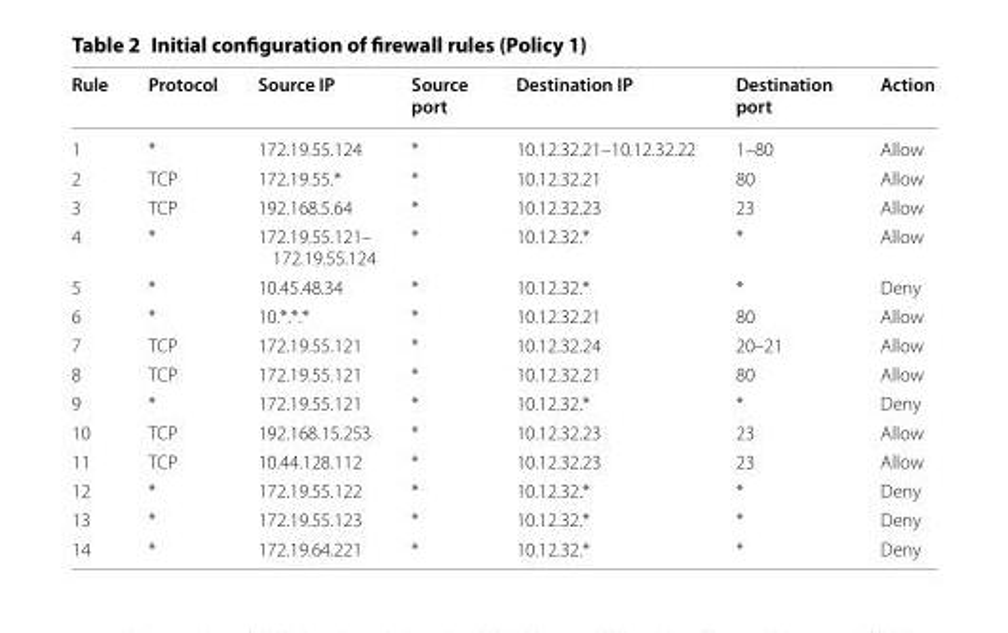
<table><thead><tr><td>Rule</td><td>Protocol</td><td>Source IP</td><td>Source port</td><td>Destination IP</td><td>Destination port</td><td>Action</td></tr></thead><tbody><tr><td>1</td><td>*</td><td>172.19.55.124</td><td>*</td><td>10.12.32.21–10.12.32.22</td><td>1–80</td><td>Allow</td></tr><tr><td>2</td><td>TCP</td><td>172.19.55.*</td><td>*</td><td>10.12.32.21</td><td>80</td><td>Allow</td></tr><tr><td>3</td><td>TCP</td><td>192.168.5.64</td><td>*</td><td>10.12.32.23</td><td>23</td><td>Allow</td></tr><tr><td>4</td><td>*</td><td>172.19.55.121– 172.19.55.124</td><td>*</td><td>10.12.32.*</td><td>*</td><td>Allow</td></tr><tr><td>5</td><td>*</td><td>10.45.48.34</td><td>*</td><td>10.12.32.*</td><td>*</td><td>Deny</td></tr><tr><td>6</td><td>*</td><td>10.*.*.*</td><td>*</td><td>10.12.32.21</td><td>80</td><td>Allow</td></tr><tr><td>7</td><td>TCP</td><td>172.19.55.121</td><td>*</td><td>10.12.32.24</td><td>20–21</td><td>Allow</td></tr><tr><td>8</td><td>TCP</td><td>172.19.55.121</td><td>*</td><td>10.12.32.21</td><td>80</td><td>Allow</td></tr><tr><td>9</td><td>*</td><td>172.19.55.121</td><td>*</td><td>10.12.32.*</td><td>*</td><td>Deny</td></tr><tr><td>10</td><td>TCP</td><td>192.168.15.253</td><td>*</td><td>10.12.32.23</td><td>23</td><td>Allow</td></tr><tr><td>11</td><td>TCP</td><td>10.44.128.112</td><td>*</td><td>10.12.32.23</td><td>23</td><td>Allow</td></tr><tr><td>12</td><td>*</td><td>172.19.55.122</td><td>*</td><td>10.12.32.*</td><td>*</td><td>Deny</td></tr><tr><td>13</td><td>*</td><td>172.19.55.123</td><td>*</td><td>10.12.32.*</td><td>*</td><td>Deny</td></tr><tr><td>14</td><td>*</td><td>172.19.64.221</td><td>*</td><td>10.12.32.*</td><td>*</td><td>Deny</td></tr></tbody></table>